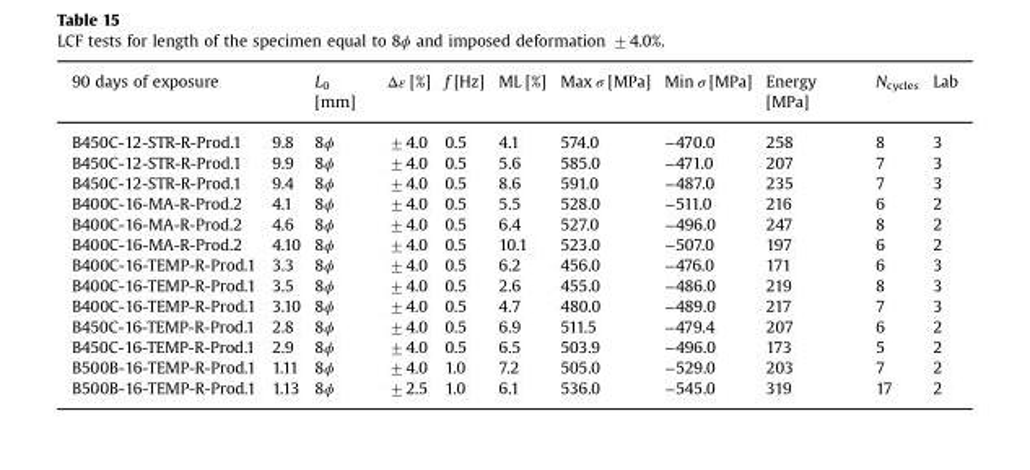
<table><thead><tr><td>90 days of exposure</td><td></td><td>L<sub>0</sub> [mm]</td><td>Δε [%]</td><td>f [Hz]</td><td>ML [%]</td><td>Max σ [MPa]</td><td>Min σ [MPa]</td><td>Energy [MPa]</td><td>N<sub>cycles</sub></td><td>Lab</td></tr></thead><tbody><tr><td>B450C-12-STR-R-Prod.1</td><td>9.8</td><td>8ϕ</td><td>±4.0</td><td>0.5</td><td>4.1</td><td>574.0</td><td>−470.0</td><td>258</td><td>8</td><td>3</td></tr><tr><td>B450C-12-STR-R-Prod.1</td><td>9.9</td><td>8ϕ</td><td>±4.0</td><td>0.5</td><td>5.6</td><td>585.0</td><td>−471.0</td><td>207</td><td>7</td><td>3</td></tr><tr><td>B450C-12-STR-R-Prod.1</td><td>9.4</td><td>8ϕ</td><td>±4.0</td><td>0.5</td><td>8.6</td><td>591.0</td><td>−487.0</td><td>235</td><td>7</td><td>3</td></tr><tr><td>B400C-16-MA-R-Prod.2</td><td>4.1</td><td>8ϕ</td><td>±4.0</td><td>0.5</td><td>5.5</td><td>528.0</td><td>−511.0</td><td>216</td><td>6</td><td>2</td></tr><tr><td>B400C-16-MA-R-Prod.2</td><td>4.6</td><td>8ϕ</td><td>±4.0</td><td>0.5</td><td>6.4</td><td>527.0</td><td>−496.0</td><td>247</td><td>8</td><td>2</td></tr><tr><td>B400C-16-MA-R-Prod.2</td><td>4.10</td><td>8ϕ</td><td>±4.0</td><td>0.5</td><td>10.1</td><td>523.0</td><td>−507.0</td><td>197</td><td>6</td><td>2</td></tr><tr><td>B400C-16-TEMP-R-Prod.1</td><td>3.3</td><td>8ϕ</td><td>±4.0</td><td>0.5</td><td>6.2</td><td>456.0</td><td>−476.0</td><td>171</td><td>6</td><td>3</td></tr><tr><td>B400C-16-TEMP-R-Prod.1</td><td>3.5</td><td>8ϕ</td><td>±4.0</td><td>0.5</td><td>2.6</td><td>455.0</td><td>−486.0</td><td>219</td><td>8</td><td>3</td></tr><tr><td>B400C-16-TEMP-R-Prod.1</td><td>3.10</td><td>8ϕ</td><td>±4.0</td><td>0.5</td><td>4.7</td><td>480.0</td><td>−489.0</td><td>217</td><td>7</td><td>3</td></tr><tr><td>B450C-16-TEMP-R-Prod.1</td><td>2.8</td><td>8ϕ</td><td>±4.0</td><td>0.5</td><td>6.9</td><td>511.5</td><td>−479.4</td><td>207</td><td>6</td><td>2</td></tr><tr><td>B450C-16-TEMP-R-Prod.1</td><td>2.9</td><td>8ϕ</td><td>±4.0</td><td>0.5</td><td>6.5</td><td>503.9</td><td>−496.0</td><td>173</td><td>5</td><td>2</td></tr><tr><td>B500B-16-TEMP-R-Prod.1</td><td>1.11</td><td>8ϕ</td><td>±4.0</td><td>1.0</td><td>7.2</td><td>505.0</td><td>−529.0</td><td>203</td><td>7</td><td>2</td></tr><tr><td>B500B-16-TEMP-R-Prod.1</td><td>1.13</td><td>8ϕ</td><td>±2.5</td><td>1.0</td><td>6.1</td><td>536.0</td><td>−545.0</td><td>319</td><td>17</td><td>2</td></tr></tbody></table>